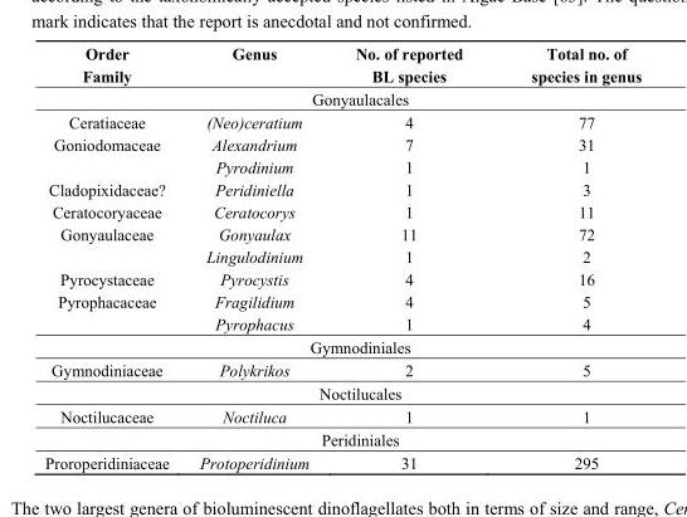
<table><thead><tr><td rowspan="2">Order Family</td><td rowspan="2">Genus</td><td rowspan="2">No. of reported BL species</td><td rowspan="2">Total no. of species in genus</td></tr><tr></tr></thead><tbody><tr><td colspan="4">Gonyaulacales</td></tr><tr><td>Ceratiaceae</td><td>(Neo)ceratium</td><td>4</td><td>77</td></tr><tr><td rowspan="2">Goniodomaceae</td><td>Alexandrium</td><td>7</td><td>31</td></tr><tr><td>Pyrodinium</td><td>1</td><td>1</td></tr><tr><td>Cladopixidaceae?</td><td>Peridiniella</td><td>1</td><td>3</td></tr><tr><td>Ceratocoryaceae</td><td>Ceratocorys</td><td>1</td><td>11</td></tr><tr><td rowspan="2">Gonyaulaceae</td><td>Gonyaulax</td><td>11</td><td>72</td></tr><tr><td>Lingulodinium</td><td>1</td><td>2</td></tr><tr><td>Pyrocystaceae</td><td>Pyrocystis</td><td>4</td><td>16</td></tr><tr><td rowspan="2">Pyrophacaceae</td><td>Fragilidium</td><td>4</td><td>5</td></tr><tr><td>Pyrophacus</td><td>1</td><td>4</td></tr><tr><td colspan="4">Gymnodiniales</td></tr><tr><td>Gymnodiniaceae</td><td>Polykrikos</td><td>2</td><td>5</td></tr><tr><td colspan="4">Noctilucales</td></tr><tr><td>Noctilucaceae</td><td>Noctiluca</td><td>1</td><td>1</td></tr><tr><td colspan="4">Peridiniales</td></tr><tr><td>Proroperidiniaceae</td><td>Protoperidinium</td><td>31</td><td>295</td></tr></tbody></table>